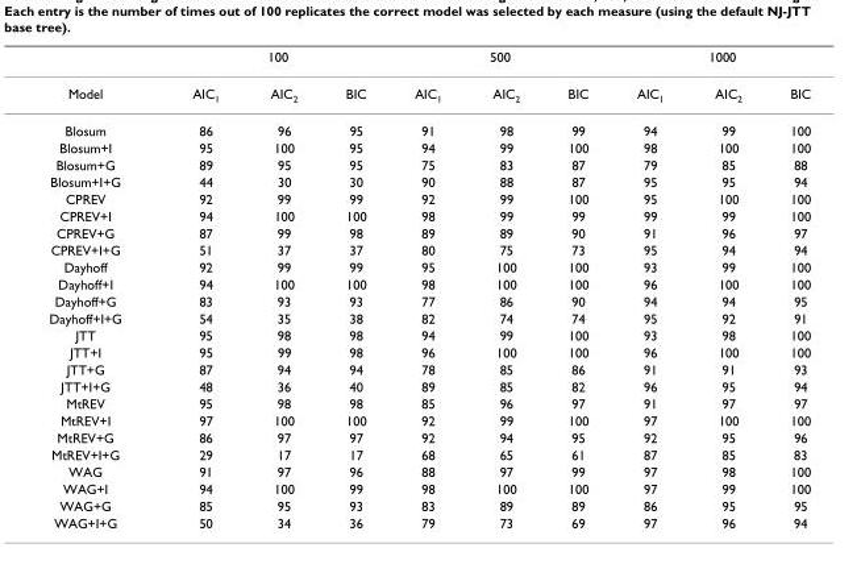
<table><thead><tr><td rowspan="2">Model</td><td colspan="3">100</td><td colspan="3">500</td><td colspan="3">1000</td></tr><tr><td>AIC<sub>1</sub></td><td>AIC<sub>2</sub></td><td>BIC</td><td>AIC<sub>1</sub></td><td>AIC<sub>2</sub></td><td>BIC</td><td>AIC<sub>1</sub></td><td>AIC<sub>2</sub></td><td>BIC</td></tr></thead><tbody><tr><td>Blosum</td><td>86</td><td>96</td><td>95</td><td>91</td><td>98</td><td>99</td><td>94</td><td>99</td><td>100</td></tr><tr><td>Blosum+I</td><td>95</td><td>100</td><td>95</td><td>94</td><td>99</td><td>100</td><td>98</td><td>100</td><td>100</td></tr><tr><td>Blosum+G</td><td>89</td><td>95</td><td>95</td><td>75</td><td>83</td><td>87</td><td>79</td><td>85</td><td>88</td></tr><tr><td>Blosum+I+G</td><td>44</td><td>30</td><td>30</td><td>90</td><td>88</td><td>87</td><td>95</td><td>95</td><td>94</td></tr><tr><td>CPREV</td><td>92</td><td>99</td><td>99</td><td>92</td><td>99</td><td>100</td><td>95</td><td>100</td><td>100</td></tr><tr><td>CPREV+I</td><td>94</td><td>100</td><td>100</td><td>98</td><td>99</td><td>99</td><td>99</td><td>99</td><td>100</td></tr><tr><td>CPREV+G</td><td>87</td><td>99</td><td>98</td><td>89</td><td>89</td><td>90</td><td>91</td><td>96</td><td>97</td></tr><tr><td>CPREV+I+G</td><td>51</td><td>37</td><td>37</td><td>80</td><td>75</td><td>73</td><td>95</td><td>94</td><td>94</td></tr><tr><td>Dayhoff</td><td>92</td><td>99</td><td>99</td><td>95</td><td>100</td><td>100</td><td>93</td><td>99</td><td>100</td></tr><tr><td>Dayhoff+I</td><td>94</td><td>100</td><td>100</td><td>98</td><td>100</td><td>100</td><td>96</td><td>100</td><td>100</td></tr><tr><td>Dayhoff+G</td><td>83</td><td>93</td><td>93</td><td>77</td><td>86</td><td>90</td><td>94</td><td>94</td><td>95</td></tr><tr><td>Dayhoff+I+G</td><td>54</td><td>35</td><td>38</td><td>82</td><td>74</td><td>74</td><td>95</td><td>92</td><td>91</td></tr><tr><td>JTT</td><td>95</td><td>98</td><td>98</td><td>94</td><td>99</td><td>100</td><td>93</td><td>98</td><td>100</td></tr><tr><td>JTT+I</td><td>95</td><td>99</td><td>98</td><td>96</td><td>100</td><td>100</td><td>96</td><td>100</td><td>100</td></tr><tr><td>JTT+G</td><td>87</td><td>94</td><td>94</td><td>78</td><td>85</td><td>86</td><td>91</td><td>91</td><td>93</td></tr><tr><td>JTT+I+G</td><td>48</td><td>36</td><td>40</td><td>89</td><td>85</td><td>82</td><td>96</td><td>95</td><td>94</td></tr><tr><td>MtREV</td><td>95</td><td>98</td><td>98</td><td>85</td><td>96</td><td>97</td><td>91</td><td>97</td><td>97</td></tr><tr><td>MtREV+I</td><td>97</td><td>100</td><td>100</td><td>92</td><td>99</td><td>100</td><td>97</td><td>100</td><td>100</td></tr><tr><td>MtREV+G</td><td>86</td><td>97</td><td>97</td><td>92</td><td>94</td><td>95</td><td>92</td><td>95</td><td>96</td></tr><tr><td>MtREV+I+G</td><td>29</td><td>17</td><td>17</td><td>68</td><td>65</td><td>61</td><td>87</td><td>85</td><td>83</td></tr><tr><td>WAG</td><td>91</td><td>97</td><td>96</td><td>88</td><td>97</td><td>99</td><td>97</td><td>98</td><td>100</td></tr><tr><td>WAG+I</td><td>94</td><td>100</td><td>99</td><td>98</td><td>100</td><td>100</td><td>97</td><td>99</td><td>100</td></tr><tr><td>WAG+G</td><td>85</td><td>95</td><td>93</td><td>83</td><td>89</td><td>89</td><td>86</td><td>95</td><td>95</td></tr><tr><td>WAG+I+G</td><td>50</td><td>34</td><td>36</td><td>79</td><td>73</td><td>69</td><td>97</td><td>96</td><td>94</td></tr></tbody></table>